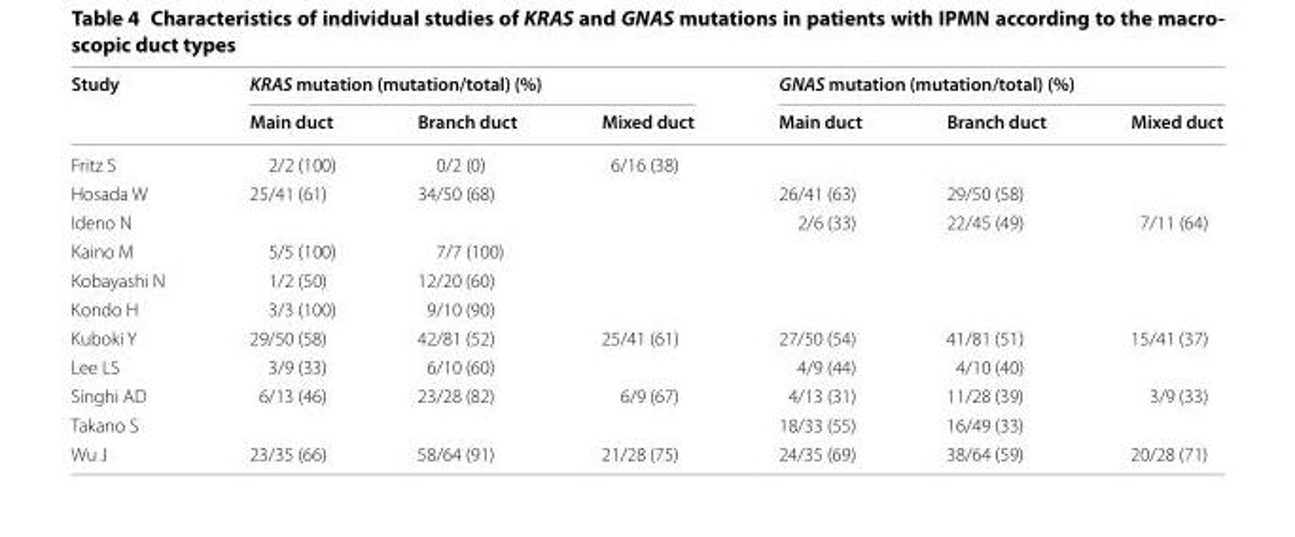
<table><thead><tr><td rowspan="2">Study</td><td colspan="3">KRAS mutation (mutation/total) (%)</td><td colspan="3">GNAS mutation (mutation/total) (%)</td></tr><tr><td>Main duct</td><td>Branch duct</td><td>Mixed duct</td><td>Main duct</td><td>Branch duct</td><td>Mixed duct</td></tr></thead><tbody><tr><td>Fritz S</td><td>2/2 (100)</td><td>0/2 (0)</td><td>6/16 (38)</td><td></td><td></td><td></td></tr><tr><td>Hosada W</td><td>25/41 (61)</td><td>34/50 (68)</td><td></td><td>26/41 (63)</td><td>29/50 (58)</td><td></td></tr><tr><td>Ideno N</td><td></td><td></td><td></td><td>2/6 (33)</td><td>22/45 (49)</td><td>7/11 (64)</td></tr><tr><td>Kaino M</td><td>5/5 (100)</td><td>7/7 (100)</td><td></td><td></td><td></td><td></td></tr><tr><td>Kobayashi N</td><td>1/2 (50)</td><td>12/20 (60)</td><td></td><td></td><td></td><td></td></tr><tr><td>Kondo H</td><td>3/3 (100)</td><td>9/10 (90)</td><td></td><td></td><td></td><td></td></tr><tr><td>Kuboki Y</td><td>29/50 (58)</td><td>42/81 (52)</td><td>25/41 (61)</td><td>27/50 (54)</td><td>41/81 (51)</td><td>15/41 (37)</td></tr><tr><td>Lee LS</td><td>3/9 (33)</td><td>6/10 (60)</td><td></td><td>4/9 (44)</td><td>4/10 (40)</td><td></td></tr><tr><td>Singhi AD</td><td>6/13 (46)</td><td>23/28 (82)</td><td>6/9 (67)</td><td>4/13 (31)</td><td>11/28 (39)</td><td>3/9 (33)</td></tr><tr><td>Takano S</td><td></td><td></td><td></td><td>18/33 (55)</td><td>16/49 (33)</td><td></td></tr><tr><td>Wu J</td><td>23/35 (66)</td><td>58/64 (91)</td><td>21/28 (75)</td><td>24/35 (69)</td><td>38/64 (59)</td><td>20/28 (71)</td></tr></tbody></table>